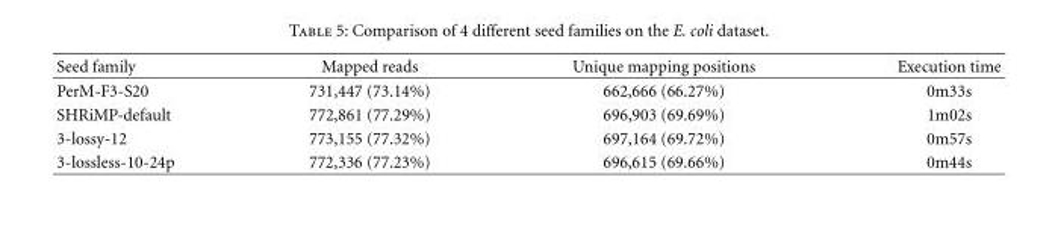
<table><thead><tr><td>Seed family</td><td>Mapped reads</td><td>Unique mapping positions</td><td>Execution time</td></tr></thead><tbody><tr><td>PerM-F3-S20</td><td>731,447 (73.14%)</td><td>662,666 (66.27%)</td><td>0m33s</td></tr><tr><td>SHRiMP-default</td><td>772,861 (77.29%)</td><td>696,903 (69.69%)</td><td>1m02s</td></tr><tr><td>3-lossy-12</td><td>773,155 (77.32%)</td><td>697,164 (69.72%)</td><td>0m57s</td></tr><tr><td>3-lossless-10-24p</td><td>772,336 (77.23%)</td><td>696,615 (69.66%)</td><td>0m44s</td></tr></tbody></table>